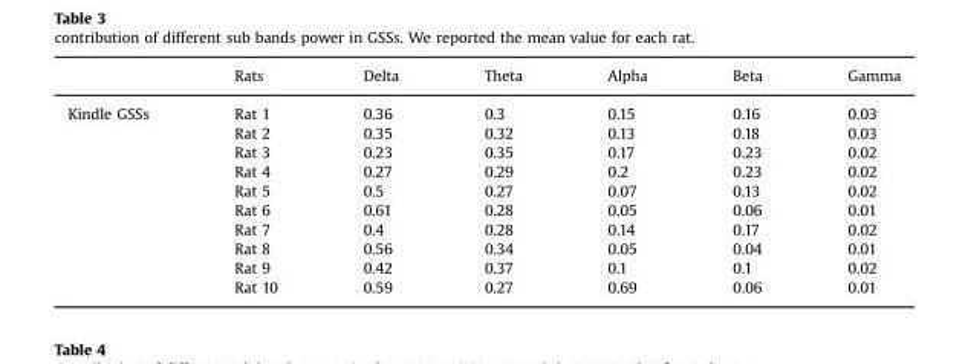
<table><thead><tr><td></td><td>Rats</td><td>Delta</td><td>Theta</td><td>Alpha</td><td>Beta</td><td>Gamma</td></tr></thead><tbody><tr><td rowspan="10">Kindle GSSs</td><td>Rat 1</td><td>0.36</td><td>0.3</td><td>0.15</td><td>0.16</td><td>0.03</td></tr><tr><td>Rat 2</td><td>0.35</td><td>0.32</td><td>0.13</td><td>0.18</td><td>0.03</td></tr><tr><td>Rat 3</td><td>0.23</td><td>0.35</td><td>0.17</td><td>0.23</td><td>0.02</td></tr><tr><td>Rat 4</td><td>0.27</td><td>0.29</td><td>0.2</td><td>0.23</td><td>0.02</td></tr><tr><td>Rat 5</td><td>0.5</td><td>0.27</td><td>0.07</td><td>0.13</td><td>0.02</td></tr><tr><td>Rat 6</td><td>0.61</td><td>0.28</td><td>0.05</td><td>0.06</td><td>0.01</td></tr><tr><td>Rat 7</td><td>0.4</td><td>0.28</td><td>0.14</td><td>0.17</td><td>0.02</td></tr><tr><td>Rat 8</td><td>0.56</td><td>0.34</td><td>0.05</td><td>0.04</td><td>0.01</td></tr><tr><td>Rat 9</td><td>0.42</td><td>0.37</td><td>0.1</td><td>0.1</td><td>0.02</td></tr><tr><td>Rat 10</td><td>0.59</td><td>0.27</td><td>0.69</td><td>0.06</td><td>0.01</td></tr></tbody></table>